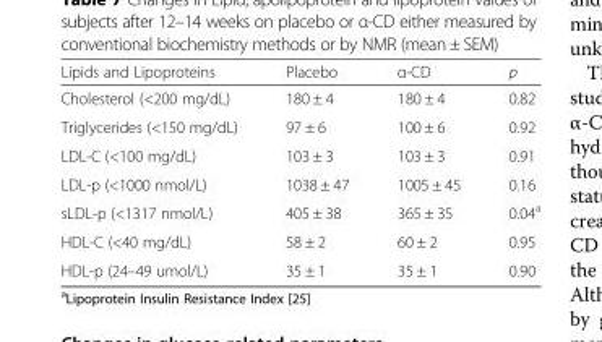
<table><thead><tr><td>Lipids and Lipoproteins</td><td>Placebo</td><td>α-CD</td><td>p</td></tr></thead><tbody><tr><td>Cholesterol (&lt;200 mg/dL)</td><td>180 ± 4</td><td>180 ± 4</td><td>0.82</td></tr><tr><td>Triglycerides (&lt;150 mg/dL)</td><td>97 ± 6</td><td>100 ± 6</td><td>0.92</td></tr><tr><td>LDL-C (&lt;100 mg/dL)</td><td>103 ± 3</td><td>103 ± 3</td><td>0.91</td></tr><tr><td>LDL-p (&lt;1000 nmol/L)</td><td>1038 ± 47</td><td>1005 ± 45</td><td>0.16</td></tr><tr><td>sLDL-p (&lt;1317 nmol/L)</td><td>405 ± 38</td><td>365 ± 35</td><td>0.04<sup>a</sup></td></tr><tr><td>HDL-C (&lt;40 mg/dL)</td><td>58 ± 2</td><td>60 ± 2</td><td>0.95</td></tr><tr><td>HDL-p (24–49 umol/L)</td><td>35 ± 1</td><td>35 ± 1</td><td>0.90</td></tr></tbody></table>